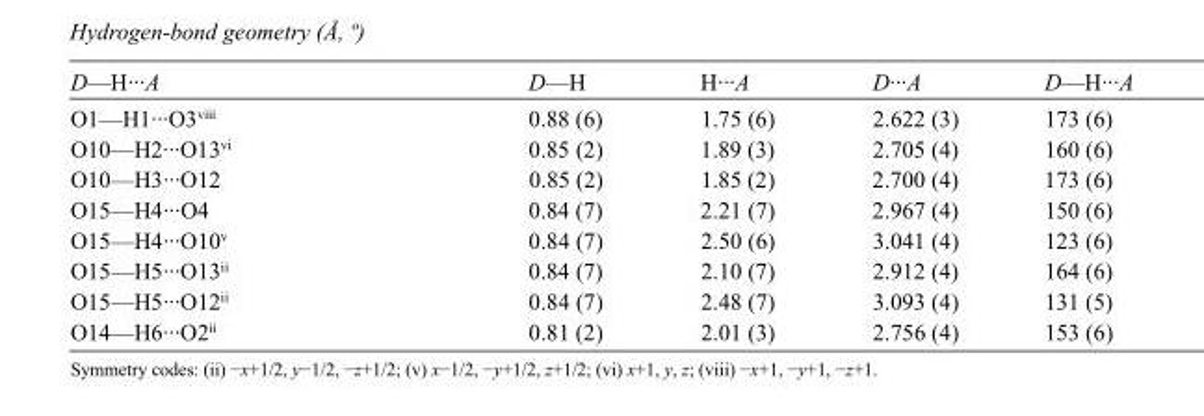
<table><tbody><tr><td>D—H···A</td><td>D—H</td><td>H···A</td><td>D···A</td><td>D—H···A</td></tr><tr><td>O1—H1···O3<sup>viii</sup></td><td>0.88 (6)</td><td>1.75 (6)</td><td>2.622 (3)</td><td>173 (6)</td></tr><tr><td>O10—H2···O13<sup>vi</sup></td><td>0.85 (2)</td><td>1.89 (3)</td><td>2.705 (4)</td><td>160 (6)</td></tr><tr><td>O10—H3···O12</td><td>0.85 (2)</td><td>1.85 (2)</td><td>2.700 (4)</td><td>173 (6)</td></tr><tr><td>O15—H4···O4</td><td>0.84 (7)</td><td>2.21 (7)</td><td>2.967 (4)</td><td>150 (6)</td></tr><tr><td>O15—H4···O10<sup>v</sup></td><td>0.84 (7)</td><td>2.50 (6)</td><td>3.041 (4)</td><td>123 (6)</td></tr><tr><td>O15—H5···O13<sup>ii</sup></td><td>0.84 (7)</td><td>2.10 (7)</td><td>2.912 (4)</td><td>164 (6)</td></tr><tr><td>O15—H5···O12<sup>ii</sup></td><td>0.84 (7)</td><td>2.48 (7)</td><td>3.093 (4)</td><td>131 (5)</td></tr><tr><td>O14—H6···O2<sup>ii</sup></td><td>0.81 (2)</td><td>2.01 (3)</td><td>2.756 (4)</td><td>153 (6)</td></tr></tbody></table>